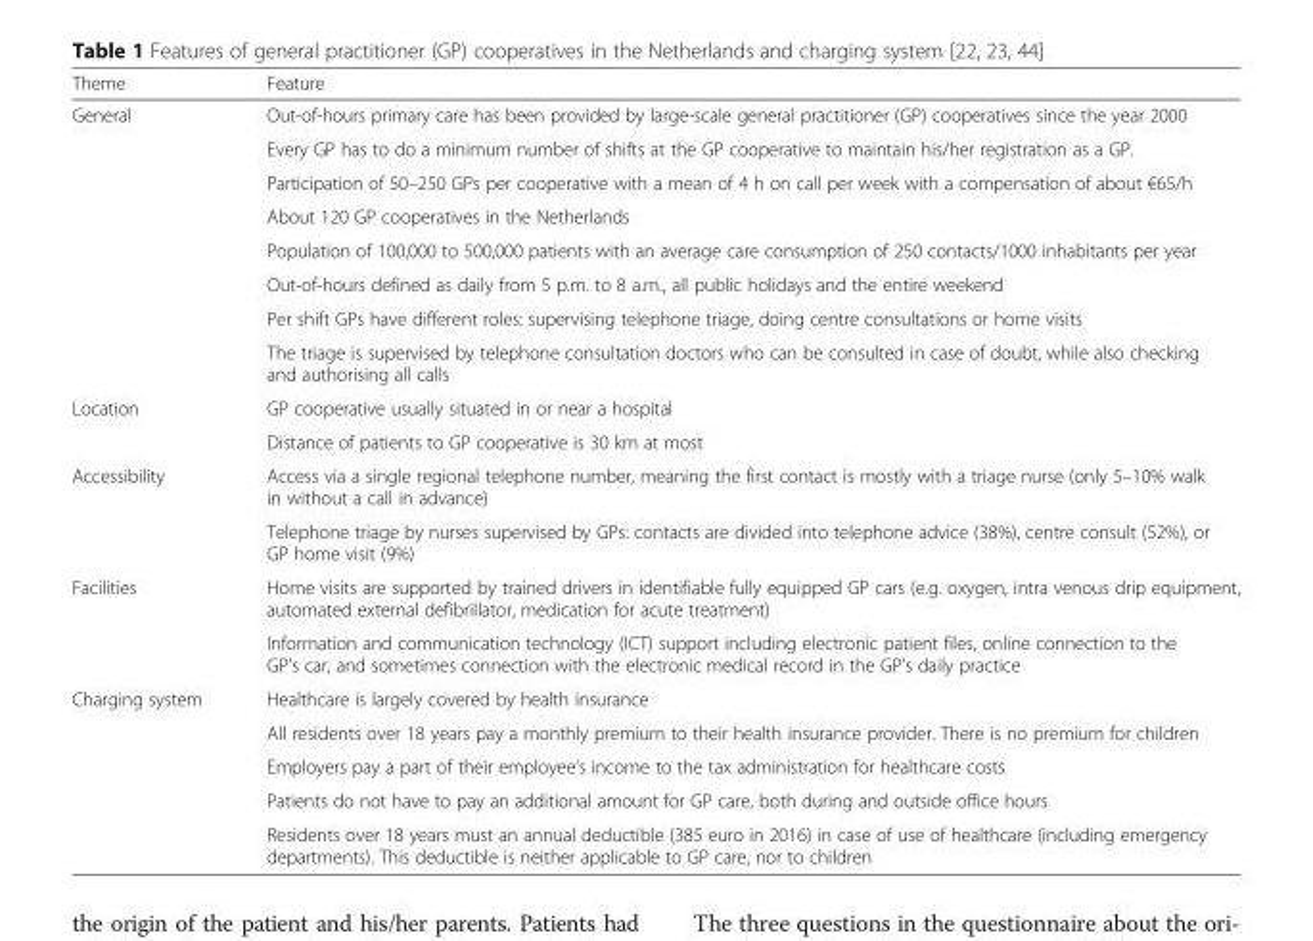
<table><thead><tr><td>Theme</td><td>Feature</td></tr></thead><tbody><tr><td rowspan="8">General</td><td>Out-of-hours primary care has been provided by large-scale general practitioner (GP) cooperatives since the year 2000</td></tr><tr><td>Every GP has to do a minimum number of shifts at the GP cooperative to maintain his/her registration as a GP.</td></tr><tr><td>Participation of 50–250 GPs per cooperative with a mean of 4 h on call per week with a compensation of about €65/h</td></tr><tr><td>About 120 GP cooperatives in the Netherlands</td></tr><tr><td>Population of 100,000 to 500,000 patients with an average care consumption of 250 contacts/1000 inhabitants per year</td></tr><tr><td>Out-of-hours defined as daily from 5 p.m. to 8 a.m., all public holidays and the entire weekend</td></tr><tr><td>Per shift GPs have different roles: supervising telephone triage, doing centre consultations or home visits</td></tr><tr><td>The triage is supervised by telephone consultation doctors who can be consulted in case of doubt, while also checking and authorising all calls</td></tr><tr><td rowspan="2">Location</td><td>GP cooperative usually situated in or near a hospital</td></tr><tr><td>Distance of patients to GP cooperative is 30 km at most</td></tr><tr><td rowspan="2">Accessibility</td><td>Access via a single regional telephone number, meaning the first contact is mostly with a triage nurse (only 5–10% walk in without a call in advance)</td></tr><tr><td>Telephone triage by nurses supervised by GPs: contacts are divided into telephone advice (38%), centre consult (52%), or GP home visit (9%)</td></tr><tr><td rowspan="2">Facilities</td><td>Home visits are supported by trained drivers in identifiable fully equipped GP cars (e.g. oxygen, intra venous drip equipment, automated external defibrillator, medication for acute treatment)</td></tr><tr><td>Information and communication technology (ICT) support including electronic patient files, online connection to the GP’s car, and sometimes connection with the electronic medical record in the GP’s daily practice</td></tr><tr><td rowspan="5">Charging system</td><td>Healthcare is largely covered by health insurance</td></tr><tr><td>All residents over 18 years pay a monthly premium to their health insurance provider. There is no premium for children</td></tr><tr><td>Employers pay a part of their employee’s income to the tax administration for healthcare costs</td></tr><tr><td>Patients do not have to pay an additional amount for GP care, both during and outside office hours</td></tr><tr><td>Residents over 18 years must an annual deductible (385 euro in 2016) in case of use of healthcare (including emergency departments). This deductible is neither applicable to GP care, nor to children</td></tr></tbody></table>